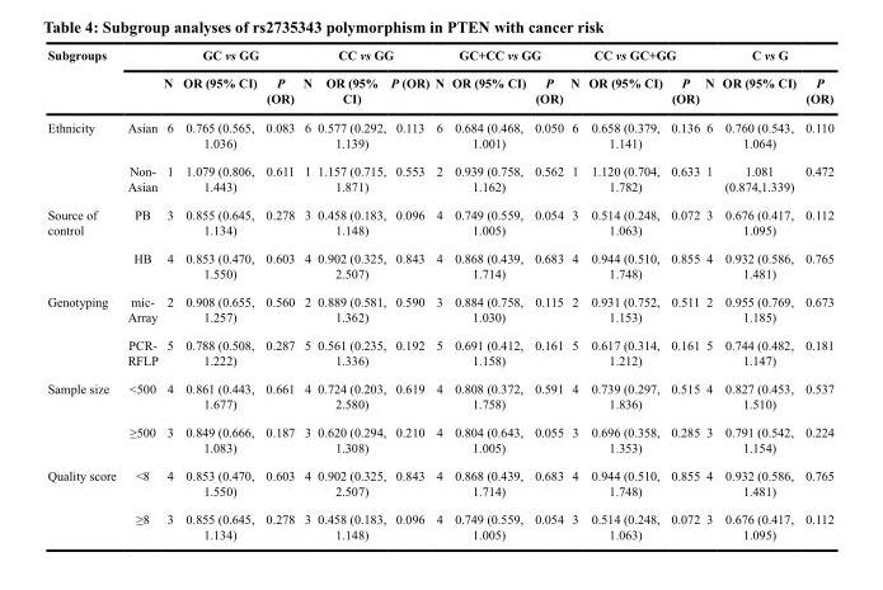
<table><thead><tr><td rowspan="2">Subgroups</td><td rowspan="2"></td><td colspan="3">GC vs GG</td><td colspan="3">CC vs GG</td><td colspan="3">GC+CC vs GG</td><td colspan="3">CC vs GC+GG</td><td colspan="3">C vs G</td></tr><tr><td>N</td><td>OR (95% CI)</td><td>P (OR)</td><td>N</td><td>OR (95% CI)</td><td>P (OR)</td><td>N</td><td>OR (95% CI)</td><td>P (OR)</td><td>N</td><td>OR (95% CI)</td><td>P (OR)</td><td>N</td><td>OR (95% CI)</td><td>P (OR)</td></tr></thead><tbody><tr><td rowspan="2">Ethnicity</td><td>Asian</td><td>6</td><td>0.765 (0.565, 1.036)</td><td>0.083</td><td>6</td><td>0.577 (0.292, 1.139)</td><td>0.113</td><td>6</td><td>0.684 (0.468, 1.001)</td><td>0.050</td><td>6</td><td>0.658 (0.379, 1.141)</td><td>0.136</td><td>6</td><td>0.760 (0.543, 1.064)</td><td>0.110</td></tr><tr><td>Non- Asian</td><td>1</td><td>1.079 (0.806, 1.443)</td><td>0.611</td><td>1</td><td>1.157 (0.715, 1.871)</td><td>0.553</td><td>2</td><td>0.939 (0.758, 1.162)</td><td>0.562</td><td>1</td><td>1.120 (0.704, 1.782)</td><td>0.633</td><td>1</td><td>1.081 (0.874,1.339)</td><td>0.472</td></tr><tr><td rowspan="2">Source of control</td><td>PB</td><td>3</td><td>0.855 (0.645, 1.134)</td><td>0.278</td><td>3</td><td>0.458 (0.183, 1.148)</td><td>0.096</td><td>4</td><td>0.749 (0.559, 1.005)</td><td>0.054</td><td>3</td><td>0.514 (0.248, 1.063)</td><td>0.072</td><td>3</td><td>0.676 (0.417, 1.095)</td><td>0.112</td></tr><tr><td>HB</td><td>4</td><td>0.853 (0.470, 1.550)</td><td>0.603</td><td>4</td><td>0.902 (0.325, 2.507)</td><td>0.843</td><td>4</td><td>0.868 (0.439, 1.714)</td><td>0.683</td><td>4</td><td>0.944 (0.510, 1.748)</td><td>0.855</td><td>4</td><td>0.932 (0.586, 1.481)</td><td>0.765</td></tr><tr><td rowspan="2">Genotyping</td><td>mic- Array</td><td>2</td><td>0.908 (0.655, 1.257)</td><td>0.560</td><td>2</td><td>0.889 (0.581, 1.362)</td><td>0.590</td><td>3</td><td>0.884 (0.758, 1.030)</td><td>0.115</td><td>2</td><td>0.931 (0.752, 1.153)</td><td>0.511</td><td>2</td><td>0.955 (0.769, 1.185)</td><td>0.673</td></tr><tr><td>PCR- RFLP</td><td>5</td><td>0.788 (0.508, 1.222)</td><td>0.287</td><td>5</td><td>0.561 (0.235, 1.336)</td><td>0.192</td><td>5</td><td>0.691 (0.412, 1.158)</td><td>0.161</td><td>5</td><td>0.617 (0.314, 1.212)</td><td>0.161</td><td>5</td><td>0.744 (0.482, 1.147)</td><td>0.181</td></tr><tr><td rowspan="2">Sample size</td><td>&lt;500</td><td>4</td><td>0.861 (0.443, 1.677)</td><td>0.661</td><td>4</td><td>0.724 (0.203, 2.580)</td><td>0.619</td><td>4</td><td>0.808 (0.372, 1.758)</td><td>0.591</td><td>4</td><td>0.739 (0.297, 1.836)</td><td>0.515</td><td>4</td><td>0.827 (0.453, 1.510)</td><td>0.537</td></tr><tr><td>≥500</td><td>3</td><td>0.849 (0.666, 1.083)</td><td>0.187</td><td>3</td><td>0.620 (0.294, 1.308)</td><td>0.210</td><td>4</td><td>0.804 (0.643, 1.005)</td><td>0.055</td><td>3</td><td>0.696 (0.358, 1.353)</td><td>0.285</td><td>3</td><td>0.791 (0.542, 1.154)</td><td>0.224</td></tr><tr><td rowspan="2">Quality score</td><td>&lt;8</td><td>4</td><td>0.853 (0.470, 1.550)</td><td>0.603</td><td>4</td><td>0.902 (0.325, 2.507)</td><td>0.843</td><td>4</td><td>0.868 (0.439, 1.714)</td><td>0.683</td><td>4</td><td>0.944 (0.510, 1.748)</td><td>0.855</td><td>4</td><td>0.932 (0.586, 1.481)</td><td>0.765</td></tr><tr><td>≥8</td><td>3</td><td>0.855 (0.645, 1.134)</td><td>0.278</td><td>3</td><td>0.458 (0.183, 1.148)</td><td>0.096</td><td>4</td><td>0.749 (0.559, 1.005)</td><td>0.054</td><td>3</td><td>0.514 (0.248, 1.063)</td><td>0.072</td><td>3</td><td>0.676 (0.417, 1.095)</td><td>0.112</td></tr></tbody></table>